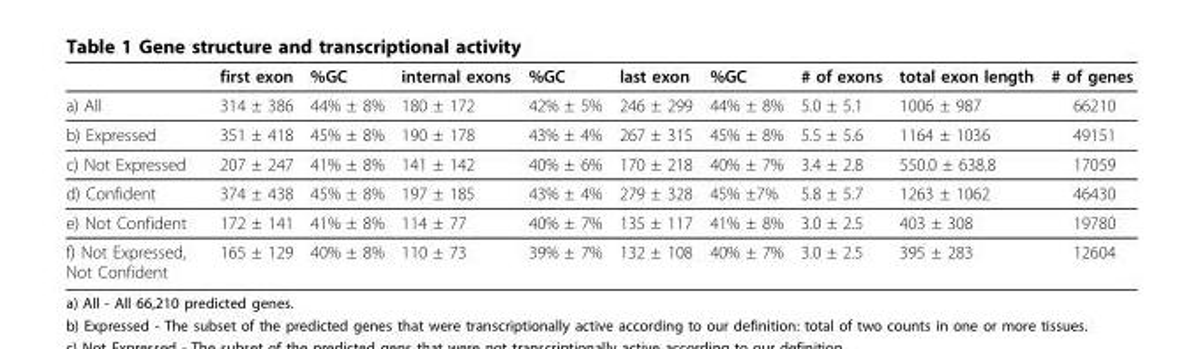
<table><thead><tr><td></td><td>first exon</td><td>%GC</td><td>internal exons</td><td>%GC</td><td>last exon</td><td>%GC</td><td># of exons</td><td>total exon length</td><td># of genes</td></tr></thead><tbody><tr><td>a) All</td><td>314 ± 386</td><td>44% ± 8%</td><td>180 ± 172</td><td>42% ± 5%</td><td>246 ± 299</td><td>44% ± 8%</td><td>5.0 ± 5.1</td><td>1006 ± 987</td><td>66210</td></tr><tr><td>b) Expressed</td><td>351 ± 418</td><td>45% ± 8%</td><td>190 ± 178</td><td>43% ± 4%</td><td>267 ± 315</td><td>45% ± 8%</td><td>5.5 ± 5.6</td><td>1164 ± 1036</td><td>49151</td></tr><tr><td>c) Not Expressed</td><td>207 ± 247</td><td>41% ± 8%</td><td>141 ± 142</td><td>40% ± 6%</td><td>170 ± 218</td><td>40% ± 7%</td><td>3.4 ± 2.8</td><td>550.0 ± 638.8</td><td>17059</td></tr><tr><td>d) Confident</td><td>374 ± 438</td><td>45% ± 8%</td><td>197 ± 185</td><td>43% ± 4%</td><td>279 ± 328</td><td>45% ±7%</td><td>5.8 ± 5.7</td><td>1263 ± 1062</td><td>46430</td></tr><tr><td>e) Not Confident</td><td>172 ± 141</td><td>41% ± 8%</td><td>114 ± 77</td><td>40% ± 7%</td><td>135 ± 117</td><td>41% ± 8%</td><td>3.0 ± 2.5</td><td>403 ± 308</td><td>19780</td></tr><tr><td>f) Not Expressed, Not Confident</td><td>165 ± 129</td><td>40% ± 8%</td><td>110 ± 73</td><td>39% ± 7%</td><td>132 ± 108</td><td>40% ± 7%</td><td>3.0 ± 2.5</td><td>395 ± 283</td><td>12604</td></tr></tbody></table>